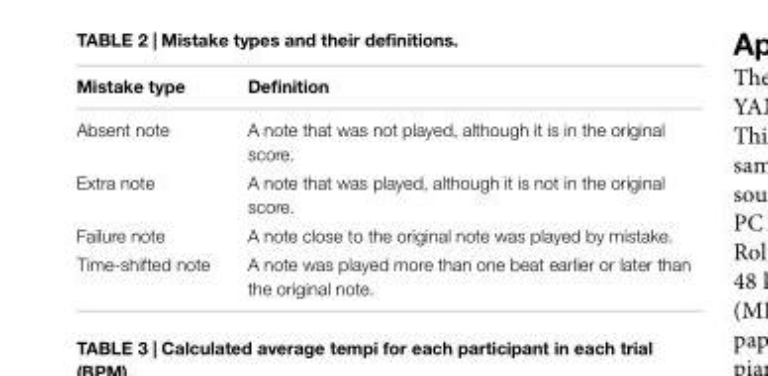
<table><thead><tr><td>Mistake type</td><td>Definition</td></tr></thead><tbody><tr><td>Absent note</td><td>A note that was not played, although it is in the original score.</td></tr><tr><td>Extra note</td><td>A note that was played, although it is not in the original score.</td></tr><tr><td>Failure note</td><td>A note close to the original note was played by mistake.</td></tr><tr><td>Time-shifted note</td><td>A note was played more than one beat earlier or later than the original note.</td></tr></tbody></table>